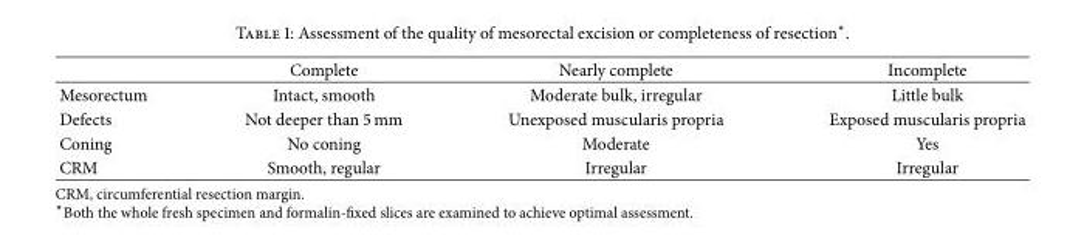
<table><thead><tr><td></td><td>Complete</td><td>Nearly complete</td><td>Incomplete</td></tr></thead><tbody><tr><td>Mesorectum</td><td>Intact, smooth</td><td>Moderate bulk, irregular</td><td>Little bulk</td></tr><tr><td>Defects</td><td>Not deeper than 5 mm</td><td>Unexposed muscularis propria</td><td>Exposed muscularis propria</td></tr><tr><td>Coning</td><td>No coning</td><td>Moderate</td><td>Yes</td></tr><tr><td>CRM</td><td>Smooth, regular</td><td>Irregular</td><td>Irregular</td></tr></tbody></table>